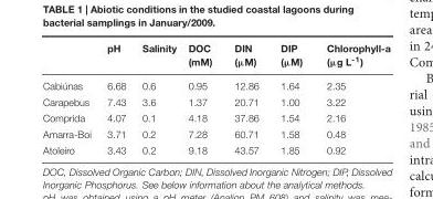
<table><thead><tr><td></td><td>pH</td><td>Salinity</td><td>DOC (mM)</td><td>DIN (µM)</td><td>DIP (µM)</td><td>Chlorophyll-a (µg L<sup>-1</sup>)</td></tr></thead><tbody><tr><td>Cabiúnas</td><td>6.68</td><td>0.6</td><td>0.95</td><td>12.86</td><td>1.64</td><td>2.35</td></tr><tr><td>Carapebus</td><td>7.43</td><td>3.6</td><td>1.37</td><td>20.71</td><td>1.00</td><td>3.22</td></tr><tr><td>Comprida</td><td>4.07</td><td>0.1</td><td>4.18</td><td>37.86</td><td>1.54</td><td>2.16</td></tr><tr><td>Amarra-Boi</td><td>3.71</td><td>0.2</td><td>7.28</td><td>60.71</td><td>1.58</td><td>0.48</td></tr><tr><td>Atoleiro</td><td>3.43</td><td>0.2</td><td>9.18</td><td>43.57</td><td>1.85</td><td>0.92</td></tr></tbody></table>